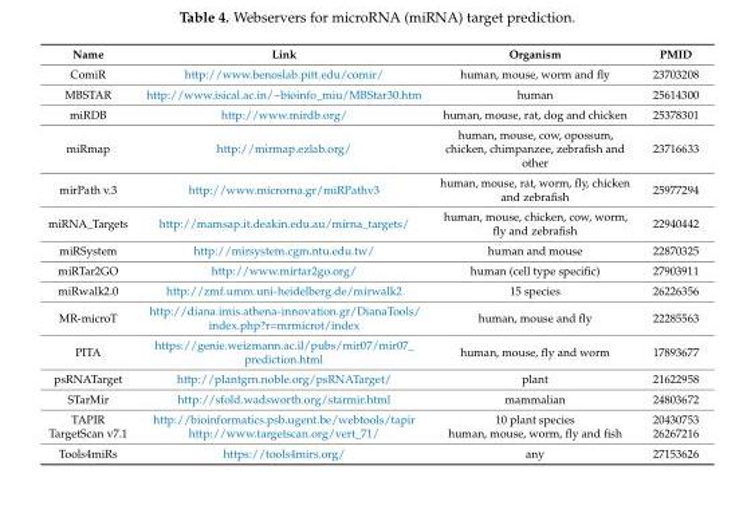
<table><thead><tr><td>Name</td><td>Link</td><td>Organism</td><td>PMID</td></tr></thead><tbody><tr><td>ComiR</td><td>http://www.benoslab.pitt.edu/comir/</td><td>human, mouse, worm and fly</td><td>23703208</td></tr><tr><td>MBSTAR</td><td>http://www.isical.ac.in/~bioinfo_miu/MBStar30.htm</td><td>human</td><td>25614300</td></tr><tr><td>miRDB</td><td>http://www.mirdb.org/</td><td>human, mouse, rat, dog and chicken</td><td>25378301</td></tr><tr><td>miRmap</td><td>http://mirmap.ezlab.org/</td><td>human, mouse, cow, opossum, chicken, chimpanzee, zebrafish and other</td><td>23716633</td></tr><tr><td>mirPath v.3</td><td>http://www.microrna.gr/miRPathv3</td><td>human, mouse, rat, worm, fly, chicken and zebrafish</td><td>25977294</td></tr><tr><td>miRNA_Targets</td><td>http://mamsap.it.deakin.edu.au/mirna_targets/</td><td>human, mouse, chicken, cow, worm, fly and zebrafish</td><td>22940442</td></tr><tr><td>miRSystem</td><td>http://mirsystem.cgm.ntu.edu.tw/</td><td>human and mouse</td><td>22870325</td></tr><tr><td>miRTar2GO</td><td>http://www.mirtar2go.org/</td><td>human (cell type specific)</td><td>27903911</td></tr><tr><td>miRwalk2.0</td><td>http://zmf.umm.uni-heidelberg.de/mirwalk2</td><td>15 species</td><td>26226356</td></tr><tr><td>MR-microT</td><td>http://diana.imis.athena-innovation.gr/DianaTools/ index.php?r=mrmicrot/index</td><td>human, mouse and fly</td><td>22285563</td></tr><tr><td>PITA</td><td>https://genie.weizmann.ac.il/pubs/mir07/mir07_ prediction.html</td><td>human, mouse, fly and worm</td><td>17893677</td></tr><tr><td>psRNATarget</td><td>http://plantgrn.noble.org/psRNATarget/</td><td>plant</td><td>21622958</td></tr><tr><td>STarMir</td><td>http://sfold.wadsworth.org/starmir.html</td><td>mammalian</td><td>24803672</td></tr><tr><td>TAPIR</td><td>http://bioinformatics.psb.ugent.be/webtools/tapir</td><td>10 plant species</td><td>20430753</td></tr><tr><td>TargetScan v7.1</td><td>http://www.targetscan.org/vert_71/</td><td>human, mouse, worm, fly and fish</td><td>26267216</td></tr><tr><td>Tools4miRs</td><td>https://tools4mirs.org/</td><td>any</td><td>27153626</td></tr></tbody></table>